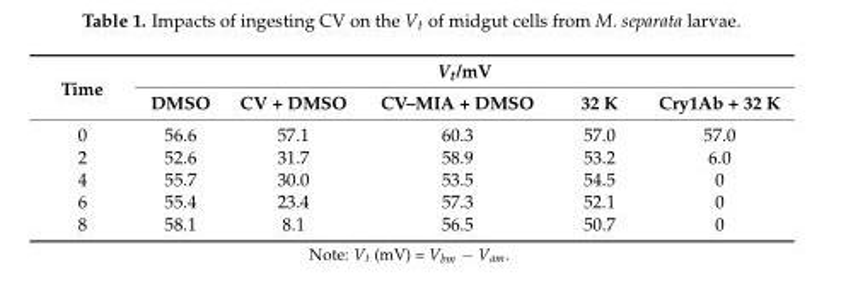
<table><thead><tr><td rowspan="2">Time</td><td colspan="5">V<sub>t</sub>/mV</td></tr><tr><td>DMSO</td><td>CV + DMSO</td><td>CV–MIA + DMSO</td><td>32 K</td><td>Cry1Ab + 32 K</td></tr></thead><tbody><tr><td>0</td><td>56.6</td><td>57.1</td><td>60.3</td><td>57.0</td><td>57.0</td></tr><tr><td>2</td><td>52.6</td><td>31.7</td><td>58.9</td><td>53.2</td><td>6.0</td></tr><tr><td>4</td><td>55.7</td><td>30.0</td><td>53.5</td><td>54.5</td><td>0</td></tr><tr><td>6</td><td>55.4</td><td>23.4</td><td>57.3</td><td>52.1</td><td>0</td></tr><tr><td>8</td><td>58.1</td><td>8.1</td><td>56.5</td><td>50.7</td><td>0</td></tr></tbody></table>